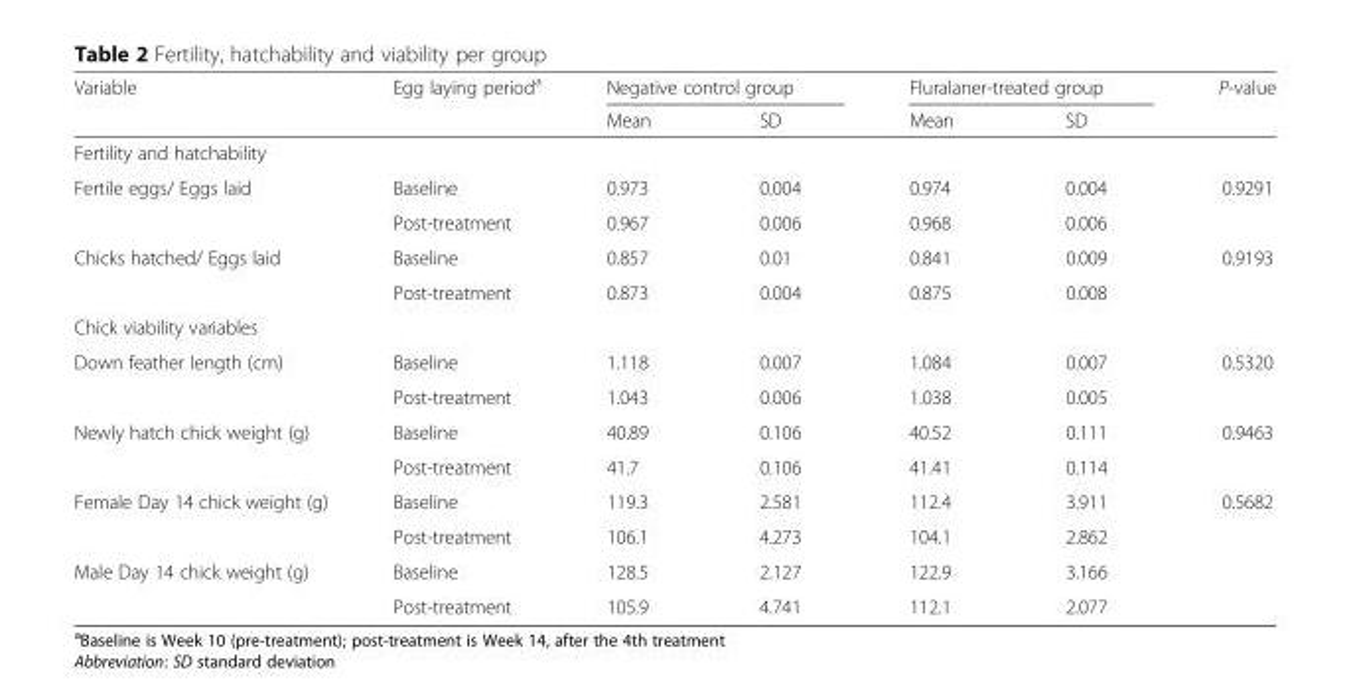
<table><thead><tr><td rowspan="2">Variable</td><td rowspan="2">Egg laying period<sup>a</sup></td><td colspan="2">Negative control group</td><td colspan="2">Fluralaner-treated group</td><td rowspan="2">P-value</td></tr><tr><td>Mean</td><td>SD</td><td>Mean</td><td>SD</td></tr></thead><tbody><tr><td colspan="7">Fertility and hatchability</td></tr><tr><td rowspan="2">Fertile eggs/ Eggs laid</td><td>Baseline</td><td>0.973</td><td>0.004</td><td>0.974</td><td>0.004</td><td rowspan="2">0.9291</td></tr><tr><td>Post-treatment</td><td>0.967</td><td>0.006</td><td>0.968</td><td>0.006</td></tr><tr><td rowspan="2">Chicks hatched/ Eggs laid</td><td>Baseline</td><td>0.857</td><td>0.01</td><td>0.841</td><td>0.009</td><td rowspan="2">0.9193</td></tr><tr><td>Post-treatment</td><td>0.873</td><td>0.004</td><td>0.875</td><td>0.008</td></tr><tr><td colspan="7">Chick viability variables</td></tr><tr><td rowspan="2">Down feather length (cm)</td><td>Baseline</td><td>1.118</td><td>0.007</td><td>1.084</td><td>0.007</td><td rowspan="2">0.5320</td></tr><tr><td>Post-treatment</td><td>1.043</td><td>0.006</td><td>1.038</td><td>0.005</td></tr><tr><td rowspan="2">Newly hatch chick weight (g)</td><td>Baseline</td><td>40.89</td><td>0.106</td><td>40.52</td><td>0.111</td><td rowspan="2">0.9463</td></tr><tr><td>Post-treatment</td><td>41.7</td><td>0.106</td><td>41.41</td><td>0.114</td></tr><tr><td rowspan="2">Female Day 14 chick weight (g)</td><td>Baseline</td><td>119.3</td><td>2.581</td><td>112.4</td><td>3.911</td><td rowspan="4">0.5682</td></tr><tr><td>Post-treatment</td><td>106.1</td><td>4.273</td><td>104.1</td><td>2.862</td></tr><tr><td rowspan="2">Male Day 14 chick weight (g)</td><td>Baseline</td><td>128.5</td><td>2.127</td><td>122.9</td><td>3.166</td></tr><tr><td>Post-treatment</td><td>105.9</td><td>4.741</td><td>112.1</td><td>2.077</td></tr></tbody></table>